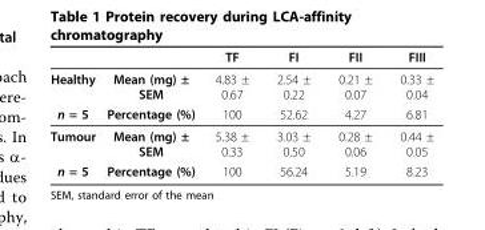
<table><thead><tr><td></td><td></td><td>TF</td><td>FI</td><td>FII</td><td>FIII</td></tr></thead><tbody><tr><td>Healthy</td><td>Mean (mg) ± SEM</td><td>4.83 ± 0.67</td><td>2.54 ± 0.22</td><td>0.21 ± 0.07</td><td>0.33 ± 0.04</td></tr><tr><td>n = 5</td><td>Percentage (%)</td><td>100</td><td>52.62</td><td>4.27</td><td>6.81</td></tr><tr><td>Tumour</td><td>Mean (mg) ± SEM</td><td>5.38 ± 0.33</td><td>3.03 ± 0.50</td><td>0.28 ± 0.06</td><td>0.44 ± 0.05</td></tr><tr><td>n = 5</td><td>Percentage (%)</td><td>100</td><td>56.24</td><td>5.19</td><td>8.23</td></tr></tbody></table>